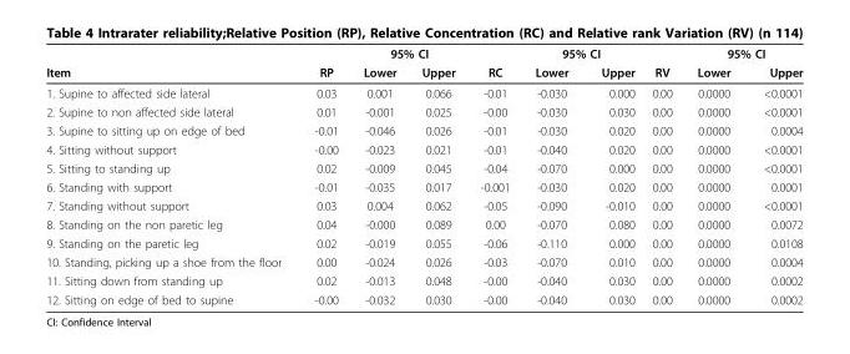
<table><thead><tr><td rowspan="2">Item</td><td rowspan="2">RP</td><td colspan="2">95% CI</td><td rowspan="2">RC</td><td colspan="2">95% CI</td><td rowspan="2">RV</td><td colspan="2">95% CI</td></tr><tr><td>Lower</td><td>Upper</td><td>Lower</td><td>Upper</td><td>Lower</td><td>Upper</td></tr></thead><tbody><tr><td>1. Supine to affected side lateral</td><td>0.03</td><td>0.001</td><td>0.066</td><td>-0.01</td><td>-0.030</td><td>0.000</td><td>0.00</td><td>0.0000</td><td>&lt;0.0001</td></tr><tr><td>2. Supine to non affected side lateral</td><td>0.01</td><td>-0.001</td><td>0.025</td><td>-0.00</td><td>-0.030</td><td>0.030</td><td>0.00</td><td>0.0000</td><td>&lt;0.0001</td></tr><tr><td>3. Supine to sitting up on edge of bed</td><td>-0.01</td><td>-0.046</td><td>0.026</td><td>-0.01</td><td>-0.030</td><td>0.020</td><td>0.00</td><td>0.0000</td><td>0.0004</td></tr><tr><td>4. Sitting without support</td><td>-0.00</td><td>-0.023</td><td>0.021</td><td>-0.01</td><td>-0.040</td><td>0.020</td><td>0.00</td><td>0.0000</td><td>&lt;0.0001</td></tr><tr><td>5. Sitting to standing up</td><td>0.02</td><td>-0.009</td><td>0.045</td><td>-0.04</td><td>-0.070</td><td>0.000</td><td>0.00</td><td>0.0000</td><td>&lt;0.0001</td></tr><tr><td>6. Standing with support</td><td>-0.01</td><td>-0.035</td><td>0.017</td><td>-0.001</td><td>-0.030</td><td>0.020</td><td>0.00</td><td>0.0000</td><td>0.0001</td></tr><tr><td>7. Standing without support</td><td>0.03</td><td>0.004</td><td>0.062</td><td>-0.05</td><td>-0.090</td><td>-0.010</td><td>0.00</td><td>0.0000</td><td>&lt;0.0001</td></tr><tr><td>8. Standing on the non paretic leg</td><td>0.04</td><td>-0.000</td><td>0.089</td><td>0.00</td><td>-0.070</td><td>0.080</td><td>0.00</td><td>0.0000</td><td>0.0072</td></tr><tr><td>9. Standing on the paretic leg</td><td>0.02</td><td>-0.019</td><td>0.055</td><td>-0.06</td><td>-0.110</td><td>0.000</td><td>0.00</td><td>0.0000</td><td>0.0108</td></tr><tr><td>10. Standing, picking up a shoe from the floor</td><td>0.00</td><td>-0.024</td><td>0.026</td><td>-0.03</td><td>-0.070</td><td>0.010</td><td>0.00</td><td>0.0000</td><td>0.0004</td></tr><tr><td>11. Sitting down from standing up</td><td>0.02</td><td>-0.013</td><td>0.048</td><td>-0.00</td><td>-0.040</td><td>0.030</td><td>0.00</td><td>0.0000</td><td>0.0002</td></tr><tr><td>12. Sitting on edge of bed to supine</td><td>-0.00</td><td>-0.032</td><td>0.030</td><td>-0.00</td><td>-0.040</td><td>0.030</td><td>0.00</td><td>0.0000</td><td>0.0002</td></tr></tbody></table>